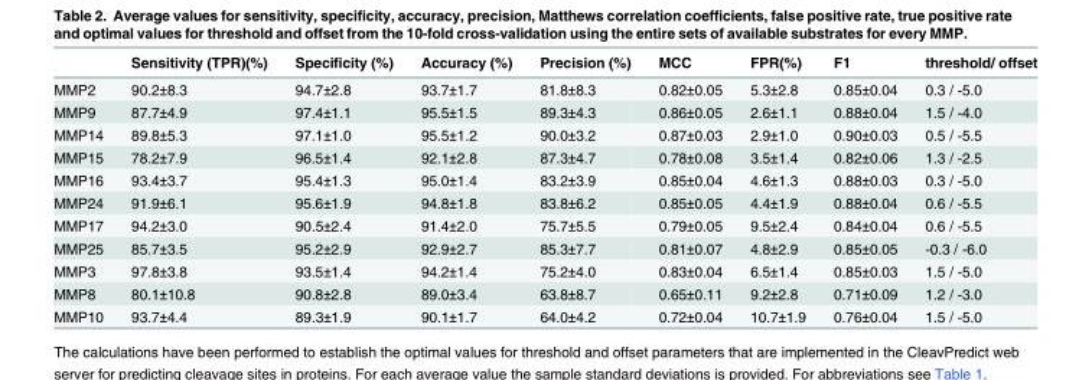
<table><thead><tr><td></td><td>Sensitivity (TPR)(%)</td><td>Specificity (%)</td><td>Accuracy (%)</td><td>Precision (%)</td><td>MCC</td><td>FPR(%)</td><td>F1</td><td>threshold/ offset</td></tr></thead><tbody><tr><td>MMP2</td><td>90.2±8.3</td><td>94.7±2.8</td><td>93.7±1.7</td><td>81.8±8.3</td><td>0.82±0.05</td><td>5.3±2.8</td><td>0.85±0.04</td><td>0.3 / -5.0</td></tr><tr><td>MMP9</td><td>87.7±4.9</td><td>97.4±1.1</td><td>95.5±1.5</td><td>89.3±4.3</td><td>0.86±0.05</td><td>2.6±1.1</td><td>0.88±0.04</td><td>1.5 / -4.0</td></tr><tr><td>MMP14</td><td>89.8±5.3</td><td>97.1±1.0</td><td>95.5±1.2</td><td>90.0±3.2</td><td>0.87±0.03</td><td>2.9±1.0</td><td>0.90±0.03</td><td>0.5 / -5.5</td></tr><tr><td>MMP15</td><td>78.2±7.9</td><td>96.5±1.4</td><td>92.1±2.8</td><td>87.3±4.7</td><td>0.78±0.08</td><td>3.5±1.4</td><td>0.82±0.06</td><td>1.3 / -2.5</td></tr><tr><td>MMP16</td><td>93.4±3.7</td><td>95.4±1.3</td><td>95.0±1.4</td><td>83.2±3.9</td><td>0.85±0.04</td><td>4.6±1.3</td><td>0.88±0.03</td><td>0.3 / -5.0</td></tr><tr><td>MMP24</td><td>91.9±6.1</td><td>95.6±1.9</td><td>94.8±1.8</td><td>83.8±6.2</td><td>0.85±0.05</td><td>4.4±1.9</td><td>0.88±0.04</td><td>0.6 / -5.5</td></tr><tr><td>MMP17</td><td>94.2±3.0</td><td>90.5±2.4</td><td>91.4±2.0</td><td>75.7±5.5</td><td>0.79±0.05</td><td>9.5±2.4</td><td>0.84±0.04</td><td>0.6 / -5.5</td></tr><tr><td>MMP25</td><td>85.7±3.5</td><td>95.2±2.9</td><td>92.9±2.7</td><td>85.3±7.7</td><td>0.81±0.07</td><td>4.8±2.9</td><td>0.85±0.05</td><td>-0.3 / -6.0</td></tr><tr><td>MMP3</td><td>97.8±3.8</td><td>93.5±1.4</td><td>94.2±1.4</td><td>75.2±4.0</td><td>0.83±0.04</td><td>6.5±1.4</td><td>0.85±0.03</td><td>1.5 / -5.0</td></tr><tr><td>MMP8</td><td>80.1±10.8</td><td>90.8±2.8</td><td>89.0±3.4</td><td>63.8±8.7</td><td>0.65±0.11</td><td>9.2±2.8</td><td>0.71±0.09</td><td>1.2 / -3.0</td></tr><tr><td>MMP10</td><td>93.7±4.4</td><td>89.3±1.9</td><td>90.1±1.7</td><td>64.0±4.2</td><td>0.72±0.04</td><td>10.7±1.9</td><td>0.76±0.04</td><td>1.5 / -5.0</td></tr></tbody></table>